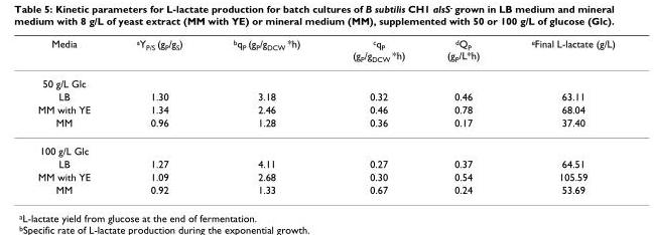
<table><thead><tr><td>Media</td><td><sup>a</sup>Y<sub>P/S</sub> (g<sub>P</sub>/g<sub>S</sub>)</td><td><sup>b</sup>q<sub>P</sub> (g<sub>P</sub>/g<sub>DCW</sub> *h)</td><td><sup>c</sup>q<sub>P</sub> (g<sub>P</sub>/g<sub>DCW</sub> *h)</td><td><sup>d</sup>Q<sub>P</sub> (g<sub>P</sub>/L*h)</td><td><sup>e</sup>Final L-lactate (g/L)</td></tr></thead><tbody><tr><td colspan="6">50 g/L Glc</td></tr><tr><td>LB</td><td>1.30</td><td>3.18</td><td>0.32</td><td>0.46</td><td>63.11</td></tr><tr><td>MM with YE</td><td>1.34</td><td>2.46</td><td>0.46</td><td>0.78</td><td>68.04</td></tr><tr><td>MM</td><td>0.96</td><td>1.28</td><td>0.36</td><td>0.17</td><td>37.40</td></tr><tr><td colspan="6">100 g/L Glc</td></tr><tr><td>LB</td><td>1.27</td><td>4.11</td><td>0.27</td><td>0.37</td><td>64.51</td></tr><tr><td>MM with YE</td><td>1.09</td><td>2.68</td><td>0.30</td><td>0.54</td><td>105.59</td></tr><tr><td>MM</td><td>0.92</td><td>1.33</td><td>0.67</td><td>0.24</td><td>53.69</td></tr></tbody></table>